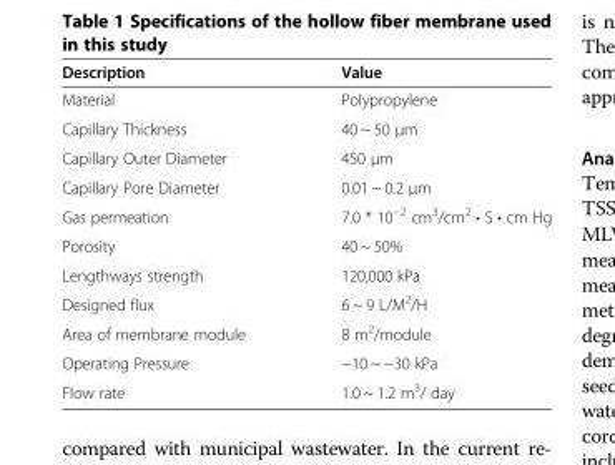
<table><thead><tr><td>Description</td><td>Value</td></tr></thead><tbody><tr><td>Material</td><td>Polypropylene</td></tr><tr><td>Capillary Thickness</td><td>40 ~ 50 μm</td></tr><tr><td>Capillary Outer Diameter</td><td>450 μm</td></tr><tr><td>Capillary Pore Diameter</td><td>0.01 ~ 0.2 μm</td></tr><tr><td>Gas permeation</td><td>7.0 * 10<sup>−2</sup> cm<sup>3</sup>/cm<sup>2</sup> • S • cm Hg</td></tr><tr><td>Porosity</td><td>40 ~ 50%</td></tr><tr><td>Lengthways strength</td><td>120,000 kPa</td></tr><tr><td>Designed flux</td><td>6 ~ 9 L/M<sup>2</sup>/H</td></tr><tr><td>Area of membrane module</td><td>8 m<sup>2</sup>/module</td></tr><tr><td>Operating Pressure</td><td>−10 ~ −30 kPa</td></tr><tr><td>Flow rate</td><td>1.0 ~ 1.2 m<sup>3</sup>/ day</td></tr></tbody></table>